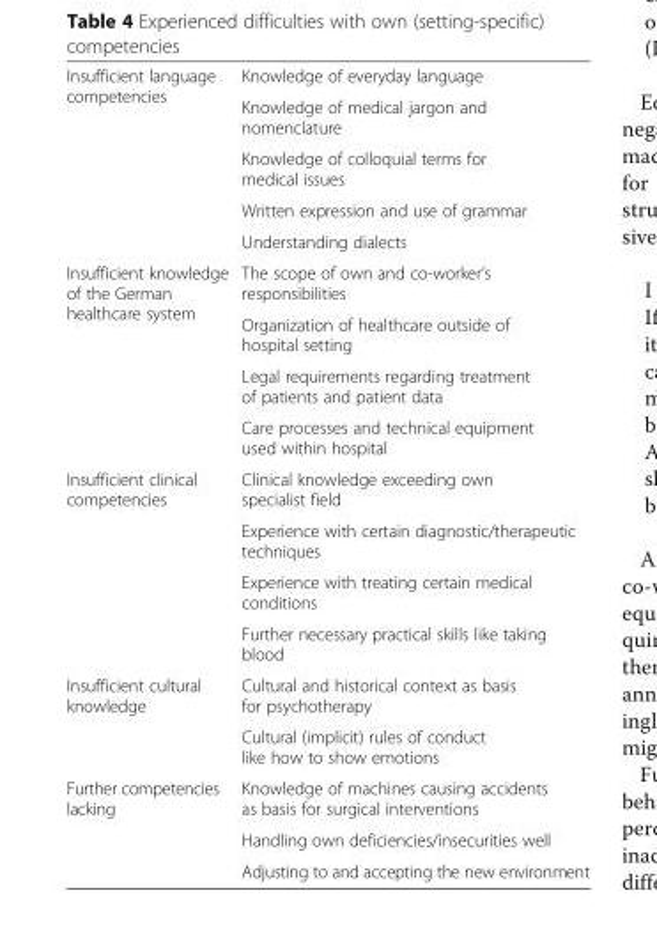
<table><tbody><tr><td rowspan="5">Insufficient language competencies</td><td>Knowledge of everyday language</td></tr><tr><td>Knowledge of medical jargon and nomenclature</td></tr><tr><td>Knowledge of colloquial terms for medical issues</td></tr><tr><td>Written expression and use of grammar</td></tr><tr><td>Understanding dialects</td></tr><tr><td rowspan="4">Insufficient knowledge of the German healthcare system</td><td>The scope of own and co-worker’s responsibilities</td></tr><tr><td>Organization of healthcare outside of hospital setting</td></tr><tr><td>Legal requirements regarding treatment of patients and patient data</td></tr><tr><td>Care processes and technical equipment used within hospital</td></tr><tr><td rowspan="4">Insufficient clinical competencies</td><td>Clinical knowledge exceeding own specialist field</td></tr><tr><td>Experience with certain diagnostic/therapeutic techniques</td></tr><tr><td>Experience with treating certain medical conditions</td></tr><tr><td>Further necessary practical skills like taking blood</td></tr><tr><td rowspan="2">Insufficient cultural knowledge</td><td>Cultural and historical context as basis for psychotherapy</td></tr><tr><td>Cultural (implicit) rules of conduct like how to show emotions</td></tr><tr><td rowspan="3">Further competencies lacking</td><td>Knowledge of machines causing accidents as basis for surgical interventions</td></tr><tr><td>Handling own deficiencies/insecurities well</td></tr><tr><td>Adjusting to and accepting the new environment</td></tr></tbody></table>